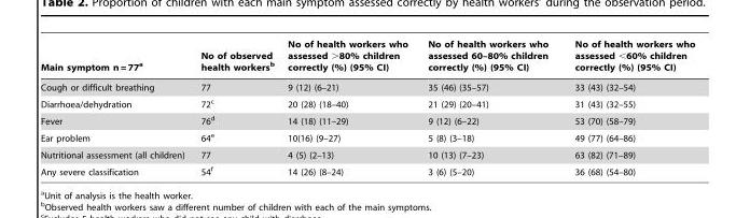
<table><thead><tr><td>Main symptom n = 77<sup>a</sup></td><td>No of observed health workers<sup>b</sup></td><td>No of health workers who assessed &gt;80% children correctly (%) (95% CI)</td><td>No of health workers who assessed 60–80% children correctly (%) (95% CI)</td><td>No of health workers who assessed &lt;60% children correctly (%) (95% CI)</td></tr></thead><tbody><tr><td>Cough or difficult breathing</td><td>77</td><td>9 (12) (6–21)</td><td>35 (46) (35–57)</td><td>33 (43) (32–54)</td></tr><tr><td>Diarrhoea/dehydration</td><td>72<sup>c</sup></td><td>20 (28) (18–40)</td><td>21 (29) (20–41)</td><td>31 (43) (32–55)</td></tr><tr><td>Fever</td><td>76<sup>d</sup></td><td>14 (18) (11–29)</td><td>9 (12) (6–22)</td><td>53 (70) (58–79)</td></tr><tr><td>Ear problem</td><td>64<sup>e</sup></td><td>10(16) (9–27)</td><td>5 (8) (3–18)</td><td>49 (77) (64–86)</td></tr><tr><td>Nutritional assessment (all children)</td><td>77</td><td>4 (5) (2–13)</td><td>10 (13) (7–23)</td><td>63 (82) (71–89)</td></tr><tr><td>Any severe classification</td><td>54<sup>f</sup></td><td>14 (26) (8–24)</td><td>3 (6) (5–20)</td><td>36 (68) (54–80)</td></tr></tbody></table>